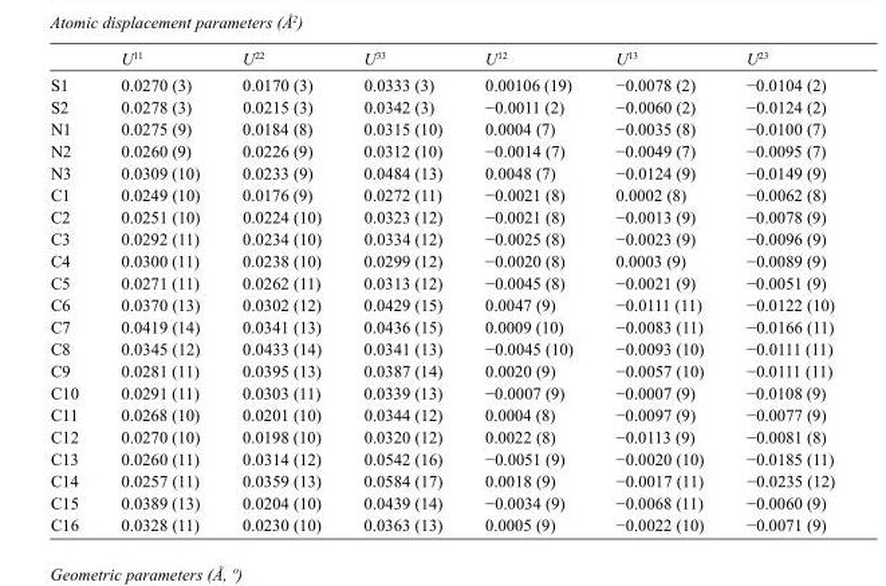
<table><thead><tr><td></td><td>U<sup>11</sup></td><td>U<sup>22</sup></td><td>U<sup>33</sup></td><td>U<sup>12</sup></td><td>U<sup>13</sup></td><td>U<sup>23</sup></td></tr></thead><tbody><tr><td>S1</td><td>0.0270 (3)</td><td>0.0170 (3)</td><td>0.0333 (3)</td><td>0.00106 (19)</td><td>−0.0078 (2)</td><td>−0.0104 (2)</td></tr><tr><td>S2</td><td>0.0278 (3)</td><td>0.0215 (3)</td><td>0.0342 (3)</td><td>−0.0011 (2)</td><td>−0.0060 (2)</td><td>−0.0124 (2)</td></tr><tr><td>N1</td><td>0.0275 (9)</td><td>0.0184 (8)</td><td>0.0315 (10)</td><td>0.0004 (7)</td><td>−0.0035 (8)</td><td>−0.0100 (7)</td></tr><tr><td>N2</td><td>0.0260 (9)</td><td>0.0226 (9)</td><td>0.0312 (10)</td><td>−0.0014 (7)</td><td>−0.0049 (7)</td><td>−0.0095 (7)</td></tr><tr><td>N3</td><td>0.0309 (10)</td><td>0.0233 (9)</td><td>0.0484 (13)</td><td>0.0048 (7)</td><td>−0.0124 (9)</td><td>−0.0149 (9)</td></tr><tr><td>C1</td><td>0.0249 (10)</td><td>0.0176 (9)</td><td>0.0272 (11)</td><td>−0.0021 (8)</td><td>0.0002 (8)</td><td>−0.0062 (8)</td></tr><tr><td>C2</td><td>0.0251 (10)</td><td>0.0224 (10)</td><td>0.0323 (12)</td><td>−0.0021 (8)</td><td>−0.0013 (9)</td><td>−0.0078 (9)</td></tr><tr><td>C3</td><td>0.0292 (11)</td><td>0.0234 (10)</td><td>0.0334 (12)</td><td>−0.0025 (8)</td><td>−0.0023 (9)</td><td>−0.0096 (9)</td></tr><tr><td>C4</td><td>0.0300 (11)</td><td>0.0238 (10)</td><td>0.0299 (12)</td><td>−0.0020 (8)</td><td>0.0003 (9)</td><td>−0.0089 (9)</td></tr><tr><td>C5</td><td>0.0271 (11)</td><td>0.0262 (11)</td><td>0.0313 (12)</td><td>−0.0045 (8)</td><td>−0.0021 (9)</td><td>−0.0051 (9)</td></tr><tr><td>C6</td><td>0.0370 (13)</td><td>0.0302 (12)</td><td>0.0429 (15)</td><td>0.0047 (9)</td><td>−0.0111 (11)</td><td>−0.0122 (10)</td></tr><tr><td>C7</td><td>0.0419 (14)</td><td>0.0341 (13)</td><td>0.0436 (15)</td><td>0.0009 (10)</td><td>−0.0083 (11)</td><td>−0.0166 (11)</td></tr><tr><td>C8</td><td>0.0345 (12)</td><td>0.0433 (14)</td><td>0.0341 (13)</td><td>−0.0045 (10)</td><td>−0.0093 (10)</td><td>−0.0111 (11)</td></tr><tr><td>C9</td><td>0.0281 (11)</td><td>0.0395 (13)</td><td>0.0387 (14)</td><td>0.0020 (9)</td><td>−0.0057 (10)</td><td>−0.0111 (11)</td></tr><tr><td>C10</td><td>0.0291 (11)</td><td>0.0303 (11)</td><td>0.0339 (13)</td><td>−0.0007 (9)</td><td>−0.0007 (9)</td><td>−0.0108 (9)</td></tr><tr><td>C11</td><td>0.0268 (10)</td><td>0.0201 (10)</td><td>0.0344 (12)</td><td>0.0004 (8)</td><td>−0.0097 (9)</td><td>−0.0077 (9)</td></tr><tr><td>C12</td><td>0.0270 (10)</td><td>0.0198 (10)</td><td>0.0320 (12)</td><td>0.0022 (8)</td><td>−0.0113 (9)</td><td>−0.0081 (8)</td></tr><tr><td>C13</td><td>0.0260 (11)</td><td>0.0314 (12)</td><td>0.0542 (16)</td><td>−0.0051 (9)</td><td>−0.0020 (10)</td><td>−0.0185 (11)</td></tr><tr><td>C14</td><td>0.0257 (11)</td><td>0.0359 (13)</td><td>0.0584 (17)</td><td>0.0018 (9)</td><td>−0.0017 (11)</td><td>−0.0235 (12)</td></tr><tr><td>C15</td><td>0.0389 (13)</td><td>0.0204 (10)</td><td>0.0439 (14)</td><td>−0.0034 (9)</td><td>−0.0068 (11)</td><td>−0.0060 (9)</td></tr><tr><td>C16</td><td>0.0328 (11)</td><td>0.0230 (10)</td><td>0.0363 (13)</td><td>0.0005 (9)</td><td>−0.0022 (10)</td><td>−0.0071 (9)</td></tr></tbody></table>